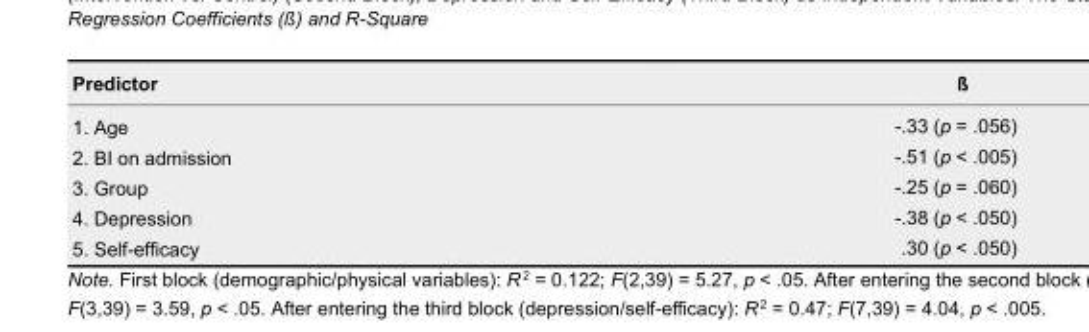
<table><thead><tr><td>Predictor</td><td>ß</td></tr></thead><tbody><tr><td>1. Age</td><td>-.33 (p = .056)</td></tr><tr><td>2. BI on admission</td><td>-.51 (p &lt; .005)</td></tr><tr><td>3. Group</td><td>-.25 (p = .060)</td></tr><tr><td>4. Depression</td><td>-.38 (p &lt; .050)</td></tr><tr><td>5. Self-efficacy</td><td>.30 (p &lt; .050)</td></tr></tbody></table>